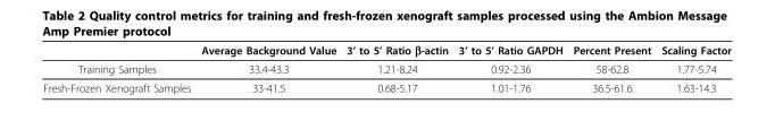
<table><thead><tr><td></td><td>Average Background Value</td><td>3’ to 5’ Ratio β-actin</td><td>3’ to 5’ Ratio GAPDH</td><td>Percent Present</td><td>Scaling Factor</td></tr></thead><tbody><tr><td>Training Samples</td><td>33.4-43.3</td><td>1.21-8.24</td><td>0.92-2.36</td><td>58-62.8</td><td>1.77-5.74</td></tr><tr><td>Fresh-Frozen Xenograft Samples</td><td>33-41.5</td><td>0.68-5.17</td><td>1.01-1.76</td><td>36.5-61.6</td><td>1.63-14.3</td></tr></tbody></table>